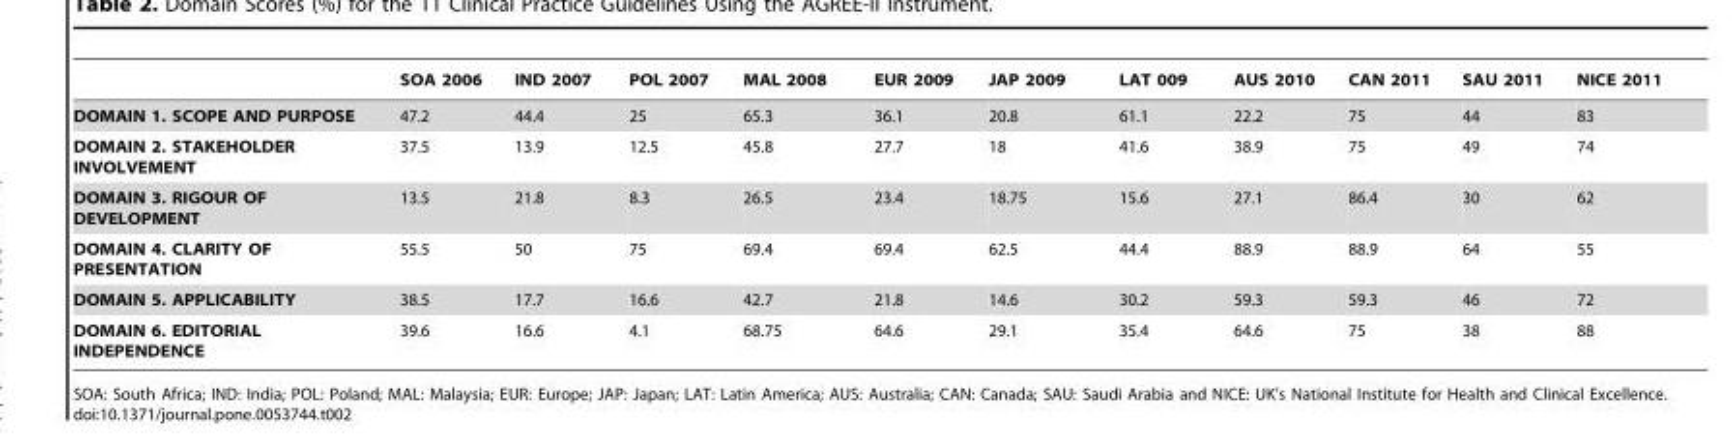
<table><thead><tr><td></td><td>SOA 2006</td><td>IND 2007</td><td>POL 2007</td><td>MAL 2008</td><td>EUR 2009</td><td>JAP 2009</td><td>LAT 009</td><td>AUS 2010</td><td>CAN 2011</td><td>SAU 2011</td><td>NICE 2011</td></tr></thead><tbody><tr><td>DOMAIN 1. SCOPE AND PURPOSE</td><td>47.2</td><td>44.4</td><td>25</td><td>65.3</td><td>36.1</td><td>20.8</td><td>61.1</td><td>22.2</td><td>75</td><td>44</td><td>83</td></tr><tr><td>DOMAIN 2. STAKEHOLDER INVOLVEMENT</td><td>37.5</td><td>13.9</td><td>12.5</td><td>45.8</td><td>27.7</td><td>18</td><td>41.6</td><td>38.9</td><td>75</td><td>49</td><td>74</td></tr><tr><td>DOMAIN 3. RIGOUR OF DEVELOPMENT</td><td>13.5</td><td>21.8</td><td>8.3</td><td>26.5</td><td>23.4</td><td>18.75</td><td>15.6</td><td>27.1</td><td>86.4</td><td>30</td><td>62</td></tr><tr><td>DOMAIN 4. CLARITY OF PRESENTATION</td><td>55.5</td><td>50</td><td>75</td><td>69.4</td><td>69.4</td><td>62.5</td><td>44.4</td><td>88.9</td><td>88.9</td><td>64</td><td>55</td></tr><tr><td>DOMAIN 5. APPLICABILITY</td><td>38.5</td><td>17.7</td><td>16.6</td><td>42.7</td><td>21.8</td><td>14.6</td><td>30.2</td><td>59.3</td><td>59.3</td><td>46</td><td>72</td></tr><tr><td>DOMAIN 6. EDITORIAL INDEPENDENCE</td><td>39.6</td><td>16.6</td><td>4.1</td><td>68.75</td><td>64.6</td><td>29.1</td><td>35.4</td><td>64.6</td><td>75</td><td>38</td><td>88</td></tr></tbody></table>